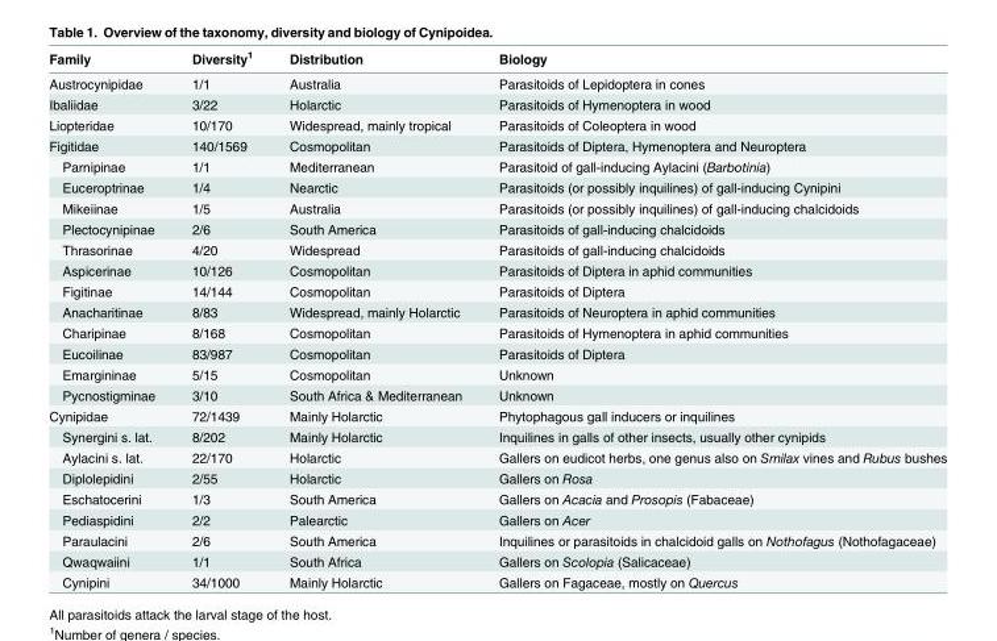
<table><thead><tr><td>Family</td><td>Diversity<sup>1</sup></td><td>Distribution</td><td>Biology</td></tr></thead><tbody><tr><td>Austrocynipidae</td><td>1/1</td><td>Australia</td><td>Parasitoids of Lepidoptera in cones</td></tr><tr><td>Ibaliidae</td><td>3/22</td><td>Holarctic</td><td>Parasitoids of Hymenoptera in wood</td></tr><tr><td>Liopteridae</td><td>10/170</td><td>Widespread, mainly tropical</td><td>Parasitoids of Coleoptera in wood</td></tr><tr><td>Figitidae</td><td>140/1569</td><td>Cosmopolitan</td><td>Parasitoids of Diptera, Hymenoptera and Neuroptera</td></tr><tr><td>Parnipinae</td><td>1/1</td><td>Mediterranean</td><td>Parasitoid of gall-inducing Aylacini (Barbotinia)</td></tr><tr><td>Euceroptrinae</td><td>1/4</td><td>Nearctic</td><td>Parasitoids (or possibly inquilines) of gall-inducing Cynipini</td></tr><tr><td>Mikeiinae</td><td>1/5</td><td>Australia</td><td>Parasitoids (or possibly inquilines) of gall-inducing chalcidoids</td></tr><tr><td>Plectocynipinae</td><td>2/6</td><td>South America</td><td>Parasitoids of gall-inducing chalcidoids</td></tr><tr><td>Thrasorinae</td><td>4/20</td><td>Widespread</td><td>Parasitoids of gall-inducing chalcidoids</td></tr><tr><td>Aspicerinae</td><td>10/126</td><td>Cosmopolitan</td><td>Parasitoids of Diptera in aphid communities</td></tr><tr><td>Figitinae</td><td>14/144</td><td>Cosmopolitan</td><td>Parasitoids of Diptera</td></tr><tr><td>Anacharitinae</td><td>8/83</td><td>Widespread, mainly Holarctic</td><td>Parasitoids of Neuroptera in aphid communities</td></tr><tr><td>Charipinae</td><td>8/168</td><td>Cosmopolitan</td><td>Parasitoids of Hymenoptera in aphid communities</td></tr><tr><td>Eucoilinae</td><td>83/987</td><td>Cosmopolitan</td><td>Parasitoids of Diptera</td></tr><tr><td>Emargininae</td><td>5/15</td><td>Cosmopolitan</td><td>Unknown</td></tr><tr><td>Pycnostigminae</td><td>3/10</td><td>South Africa &amp; Mediterranean</td><td>Unknown</td></tr><tr><td>Cynipidae</td><td>72/1439</td><td>Mainly Holarctic</td><td>Phytophagous gall inducers or inquilines</td></tr><tr><td>Synergini s. lat.</td><td>8/202</td><td>Mainly Holarctic</td><td>Inquilines in galls of other insects, usually other cynipids</td></tr><tr><td>Aylacini s. lat.</td><td>22/170</td><td>Holarctic</td><td>Gallers on eudicot herbs, one genus also on Smilax vines and Rubus bushes</td></tr><tr><td>Diplolepidini</td><td>2/55</td><td>Holarctic</td><td>Gallers on Rosa</td></tr><tr><td>Eschatocerini</td><td>1/3</td><td>South America</td><td>Gallers on Acacia and Prosopis (Fabaceae)</td></tr><tr><td>Pediaspidini</td><td>2/2</td><td>Palearctic</td><td>Gallers on Acer</td></tr><tr><td>Paraulacini</td><td>2/6</td><td>South America</td><td>Inquilines or parasitoids in chalcidoid galls on Nothofagus (Nothofagaceae)</td></tr><tr><td>Qwaqwaiini</td><td>1/1</td><td>South Africa</td><td>Gallers on Scolopia (Salicaceae)</td></tr><tr><td>Cynipini</td><td>34/1000</td><td>Mainly Holarctic</td><td>Gallers on Fagaceae, mostly on Quercus</td></tr></tbody></table>